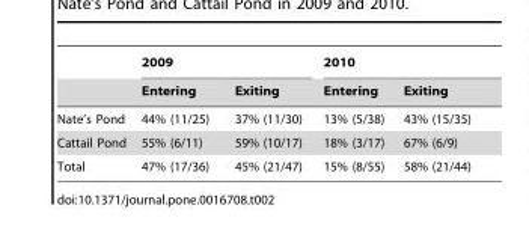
<table><thead><tr><td rowspan="2"></td><td colspan="2">2009</td><td colspan="2">2010</td></tr><tr><td>Entering</td><td>Exiting</td><td>Entering</td><td>Exiting</td></tr></thead><tbody><tr><td>Nate’s Pond</td><td>44% (11/25)</td><td>37% (11/30)</td><td>13% (5/38)</td><td>43% (15/35)</td></tr><tr><td>Cattail Pond</td><td>55% (6/11)</td><td>59% (10/17)</td><td>18% (3/17)</td><td>67% (6/9)</td></tr><tr><td>Total</td><td>47% (17/36)</td><td>45% (21/47)</td><td>15% (8/55)</td><td>58% (21/44)</td></tr></tbody></table>